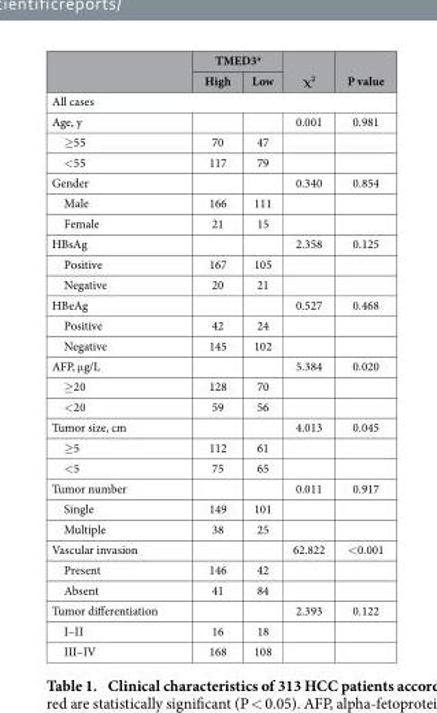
<table><thead><tr><td rowspan="2"></td><td colspan="2">TMED3<sup>a</sup></td><td rowspan="2">χ<sup>2</sup></td><td rowspan="2">P value</td></tr><tr><td>High</td><td>Low</td></tr></thead><tbody><tr><td colspan="5">All cases</td></tr><tr><td>Age, y</td><td></td><td></td><td>0.001</td><td>0.981</td></tr><tr><td>≥ 55</td><td>70</td><td>47</td><td></td><td></td></tr><tr><td>&lt; 55</td><td>117</td><td>79</td><td></td><td></td></tr><tr><td>Gender</td><td></td><td></td><td>0.340</td><td>0.854</td></tr><tr><td>Male</td><td>166</td><td>111</td><td></td><td></td></tr><tr><td>Female</td><td>21</td><td>15</td><td></td><td></td></tr><tr><td>HBsAg</td><td></td><td></td><td>2.358</td><td>0.125</td></tr><tr><td>Positive</td><td>167</td><td>105</td><td></td><td></td></tr><tr><td>Negative</td><td>20</td><td>21</td><td></td><td></td></tr><tr><td>HBeAg</td><td></td><td></td><td>0.527</td><td>0.468</td></tr><tr><td>Positive</td><td>42</td><td>24</td><td></td><td></td></tr><tr><td>Negative</td><td>145</td><td>102</td><td></td><td></td></tr><tr><td>AFP, μ g/L</td><td></td><td></td><td>5.384</td><td>0.020</td></tr><tr><td>≥ 20</td><td>128</td><td>70</td><td></td><td></td></tr><tr><td>&lt; 20</td><td>59</td><td>56</td><td></td><td></td></tr><tr><td>Tumor size, cm</td><td></td><td></td><td>4.013</td><td>0.045</td></tr><tr><td>≥ 5</td><td>112</td><td>61</td><td></td><td></td></tr><tr><td>&lt; 5</td><td>75</td><td>65</td><td></td><td></td></tr><tr><td>Tumor number</td><td></td><td></td><td>0.011</td><td>0.917</td></tr><tr><td>Single</td><td>149</td><td>101</td><td></td><td></td></tr><tr><td>Multiple</td><td>38</td><td>25</td><td></td><td></td></tr><tr><td>Vascular invasion</td><td></td><td></td><td>62.822</td><td>&lt; 0.001</td></tr><tr><td>Present</td><td>146</td><td>42</td><td></td><td></td></tr><tr><td>Absent</td><td>41</td><td>84</td><td></td><td></td></tr><tr><td>Tumor differentiation</td><td></td><td></td><td>2.393</td><td>0.122</td></tr><tr><td>I–II</td><td>16</td><td>18</td><td></td><td></td></tr><tr><td>III–IV</td><td>168</td><td>108</td><td></td><td></td></tr></tbody></table>